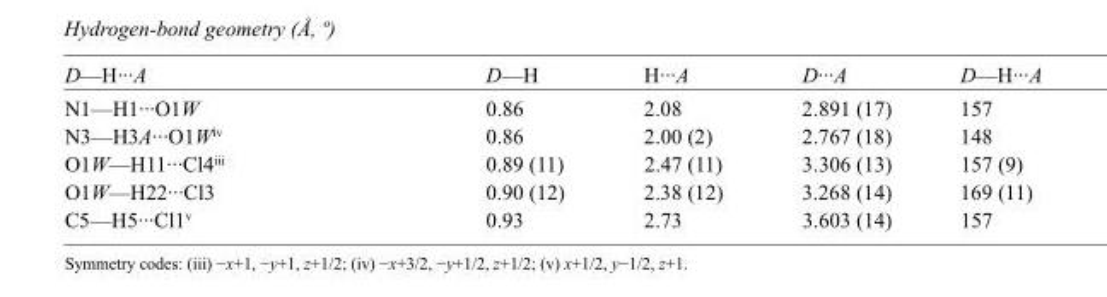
<table><tbody><tr><td>D—H···A</td><td>D—H</td><td>H···A</td><td>D···A</td><td>D—H···A</td></tr><tr><td>N1—H1···O1W</td><td>0.86</td><td>2.08</td><td>2.891 (17)</td><td>157</td></tr><tr><td>N3—H3A···O1W<sup>iv</sup></td><td>0.86</td><td>2.00 (2)</td><td>2.767 (18)</td><td>148</td></tr><tr><td>O1W—H11···Cl4<sup>iii</sup></td><td>0.89 (11)</td><td>2.47 (11)</td><td>3.306 (13)</td><td>157 (9)</td></tr><tr><td>O1W—H22···Cl3</td><td>0.90 (12)</td><td>2.38 (12)</td><td>3.268 (14)</td><td>169 (11)</td></tr><tr><td>C5—H5···Cl1<sup>v</sup></td><td>0.93</td><td>2.73</td><td>3.603 (14)</td><td>157</td></tr></tbody></table>